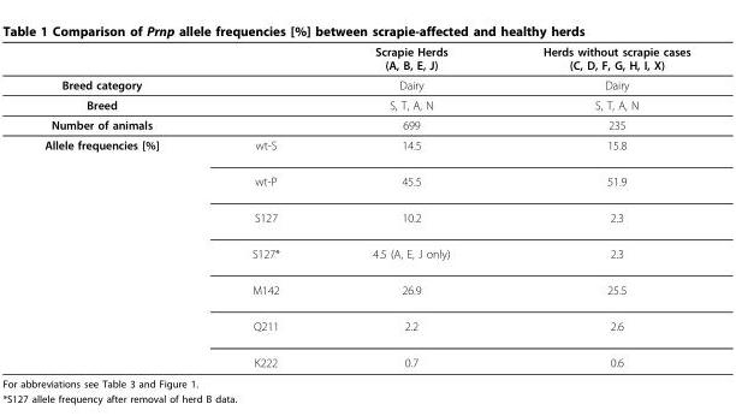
<table><thead><tr><td></td><td></td><td>Scrapie Herds (A, B, E, J)</td><td>Herds without scrapie cases (C, D, F, G, H, I, X)</td></tr></thead><tbody><tr><td>Breed category</td><td></td><td>Dairy</td><td>Dairy</td></tr><tr><td>Breed</td><td></td><td>S, T, A, N</td><td>S, T, A, N</td></tr><tr><td>Number of animals</td><td></td><td>699</td><td>235</td></tr><tr><td rowspan="7">Allele frequencies [%]</td><td>wt-S</td><td>14.5</td><td>15.8</td></tr><tr><td>wt-P</td><td>45.5</td><td>51.9</td></tr><tr><td>S127</td><td>10.2</td><td>2.3</td></tr><tr><td>S127*</td><td>4.5 (A, E, J only)</td><td>2.3</td></tr><tr><td>M142</td><td>26.9</td><td>25.5</td></tr><tr><td>Q211</td><td>2.2</td><td>2.6</td></tr><tr><td>K222</td><td>0.7</td><td>0.6</td></tr></tbody></table>